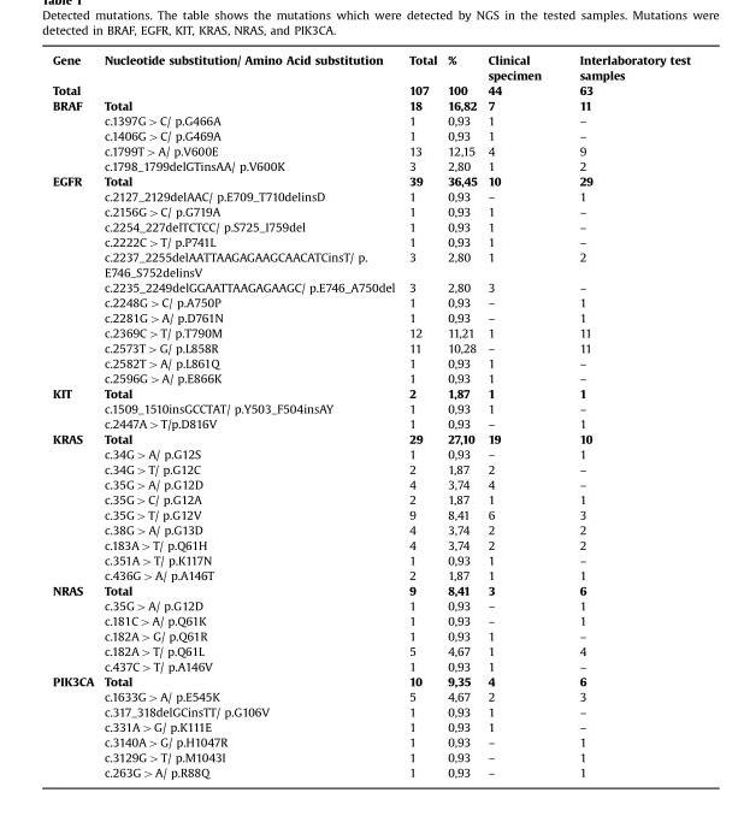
<table><tbody><tr><td>Gene</td><td>Nucleotide substitution/ Amino Acid substitution</td><td>Total</td><td>%</td><td>Clinical specimen</td><td>Interlaboratory test samples</td></tr><tr><td>Total</td><td></td><td>107</td><td>100</td><td>44</td><td>63</td></tr><tr><td rowspan="5">BRAF</td><td>Total</td><td>18</td><td>16,82</td><td>7</td><td>11</td></tr><tr><td>c.1397G&gt;C/ p.G466A</td><td>1</td><td>0,93</td><td>1</td><td>–</td></tr><tr><td>c.1406G&gt;C/ p.G469A</td><td>1</td><td>0,93</td><td>1</td><td>–</td></tr><tr><td>c.1799T&gt;A/ p.V600E</td><td>13</td><td>12,15</td><td>4</td><td>9</td></tr><tr><td>c.1798_1799delGTinsAA/ p.V600K</td><td>3</td><td>2,80</td><td>1</td><td>2</td></tr><tr><td rowspan="13">EGFR</td><td>Total</td><td>39</td><td>36,45</td><td>10</td><td>29</td></tr><tr><td>c.2127_2129delAAC/ p.E709_T710delinsD</td><td>1</td><td>0,93</td><td>–</td><td>1</td></tr><tr><td>c.2156G&gt;C/ p.G719A</td><td>1</td><td>0,93</td><td>1</td><td>–</td></tr><tr><td>c.2254_227delTCTCC/ p.S725_I759del</td><td>1</td><td>0,93</td><td>1</td><td>–</td></tr><tr><td>c.2222C&gt;T/ p.P741L</td><td>1</td><td>0,93</td><td>1</td><td>–</td></tr><tr><td>c.2237_2255delAATTAAGAGAAGCAACATCinsT/ p. E746_S752delinsV</td><td>3</td><td>2,80</td><td>1</td><td>2</td></tr><tr><td>c.2235_2249delGGAATTAAGAGAAGC/ p.E746_A750del</td><td>3</td><td>2,80</td><td>3</td><td>–</td></tr><tr><td>c.2248G&gt;C/ p.A750P</td><td>1</td><td>0,93</td><td>–</td><td>1</td></tr><tr><td>c.2281G&gt;A/ p.D761N</td><td>1</td><td>0,93</td><td>–</td><td>1</td></tr><tr><td>c.2369C&gt;T/ p.T790M</td><td>12</td><td>11,21</td><td>1</td><td>11</td></tr><tr><td>c.2573T&gt;G/ p.L858R</td><td>11</td><td>10,28</td><td>–</td><td>11</td></tr><tr><td>c.2582T&gt;A/ p.L861Q</td><td>1</td><td>0,93</td><td>1</td><td>–</td></tr><tr><td>c.2596G&gt;A/ p.E866K</td><td>1</td><td>0,93</td><td>1</td><td>–</td></tr><tr><td rowspan="3">KIT</td><td>Total</td><td>2</td><td>1,87</td><td>1</td><td>1</td></tr><tr><td>c.1509_1510insGCCTAT/ p.Y503_F504insAY</td><td>1</td><td>0,93</td><td>1</td><td>–</td></tr><tr><td>c.2447A&gt;T/p.D816V</td><td>1</td><td>0,93</td><td>–</td><td>1</td></tr><tr><td rowspan="10">KRAS</td><td>Total</td><td>29</td><td>27,10</td><td>19</td><td>10</td></tr><tr><td>c.34G&gt;A/ p.G12S</td><td>1</td><td>0,93</td><td>–</td><td>1</td></tr><tr><td>c.34G&gt;T/ p.G12C</td><td>2</td><td>1,87</td><td>2</td><td>–</td></tr><tr><td>c.35G&gt;A/ p.G12D</td><td>4</td><td>3,74</td><td>4</td><td>–</td></tr><tr><td>c.35G&gt;C/ p.G12A</td><td>2</td><td>1,87</td><td>1</td><td>1</td></tr><tr><td>c.35G&gt;T/ p.G12V</td><td>9</td><td>8,41</td><td>6</td><td>3</td></tr><tr><td>c.38G&gt;A/ p.G13D</td><td>4</td><td>3,74</td><td>2</td><td>2</td></tr><tr><td>c.183A&gt;T/ p.Q61H</td><td>4</td><td>3,74</td><td>2</td><td>2</td></tr><tr><td>c.351A&gt;T/ p.K117N</td><td>1</td><td>0,93</td><td>1</td><td>–</td></tr><tr><td>c.436G&gt;A/ p.A146T</td><td>2</td><td>1,87</td><td>1</td><td>1</td></tr><tr><td rowspan="6">NRAS</td><td>Total</td><td>9</td><td>8,41</td><td>3</td><td>6</td></tr><tr><td>c.35G&gt;A/ p.G12D</td><td>1</td><td>0,93</td><td>–</td><td>1</td></tr><tr><td>c.181C&gt;A/ p.Q61K</td><td>1</td><td>0,93</td><td>–</td><td>1</td></tr><tr><td>c.182A&gt;G/ p.Q61R</td><td>1</td><td>0,93</td><td>1</td><td>–</td></tr><tr><td>c.182A&gt;T/ p.Q61L</td><td>5</td><td>4,67</td><td>1</td><td>4</td></tr><tr><td>c.437C&gt;T/ p.A146V</td><td>1</td><td>0,93</td><td>1</td><td>–</td></tr><tr><td rowspan="7">PIK3CA</td><td>Total</td><td>10</td><td>9,35</td><td>4</td><td>6</td></tr><tr><td>c.1633G&gt;A/ p.E545K</td><td>5</td><td>4,67</td><td>2</td><td>3</td></tr><tr><td>c.317_318delGCinsTT/ p.G106V</td><td>1</td><td>0,93</td><td>1</td><td>–</td></tr><tr><td>c.331A&gt;G/ p.K111E</td><td>1</td><td>0,93</td><td>1</td><td>–</td></tr><tr><td>c.3140A&gt;G/ p.H1047R</td><td>1</td><td>0,93</td><td>–</td><td>1</td></tr><tr><td>c.3129G&gt;T/ p.M1043I</td><td>1</td><td>0,93</td><td>–</td><td>1</td></tr><tr><td>c.263G&gt;A/ p.R88Q</td><td>1</td><td>0,93</td><td>–</td><td>1</td></tr></tbody></table>